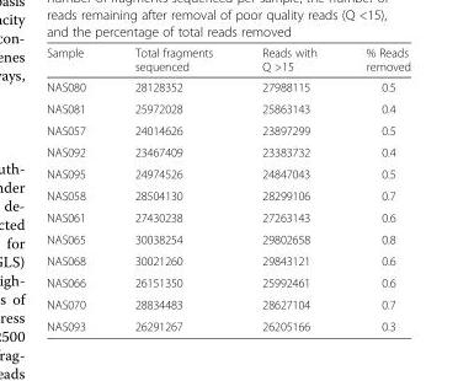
<table><thead><tr><td>Sample</td><td>Total fragments sequenced</td><td>Reads with Q &gt;15</td><td>% Reads removed</td></tr></thead><tbody><tr><td>NAS080</td><td>28128352</td><td>27988115</td><td>0.5</td></tr><tr><td>NAS081</td><td>25972028</td><td>25863143</td><td>0.4</td></tr><tr><td>NAS057</td><td>24014626</td><td>23897299</td><td>0.5</td></tr><tr><td>NAS092</td><td>23467409</td><td>23383732</td><td>0.4</td></tr><tr><td>NAS095</td><td>24974526</td><td>24847043</td><td>0.5</td></tr><tr><td>NAS058</td><td>28504130</td><td>28299106</td><td>0.7</td></tr><tr><td>NAS061</td><td>27430238</td><td>27263143</td><td>0.6</td></tr><tr><td>NAS065</td><td>30038254</td><td>29802658</td><td>0.8</td></tr><tr><td>NAS068</td><td>30021260</td><td>29843121</td><td>0.6</td></tr><tr><td>NAS066</td><td>26151350</td><td>25992461</td><td>0.6</td></tr><tr><td>NAS070</td><td>28834483</td><td>28627104</td><td>0.7</td></tr><tr><td>NAS093</td><td>26291267</td><td>26205166</td><td>0.3</td></tr></tbody></table>